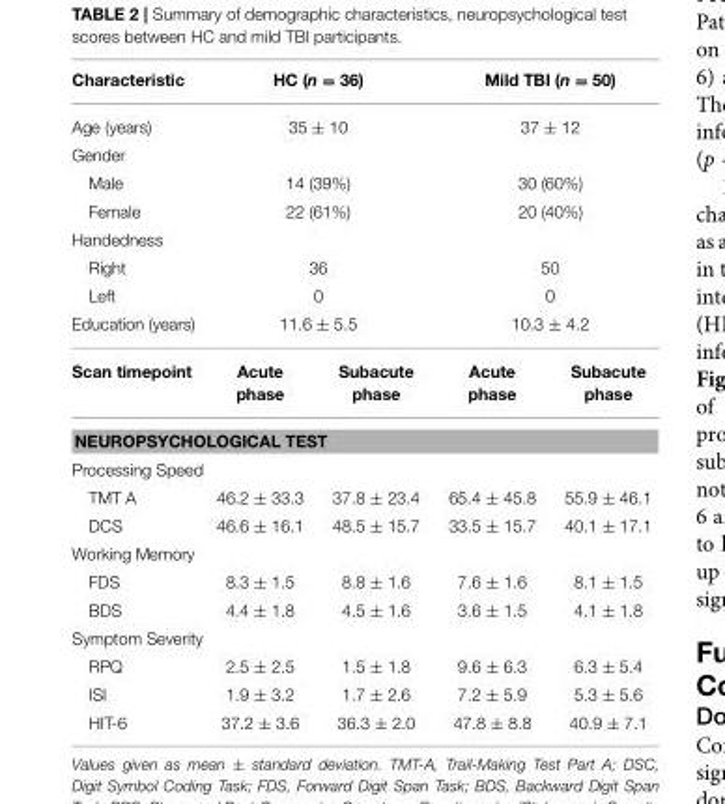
<table><thead><tr><td>Characteristic</td><td colspan="2">HC (n = 36)</td><td colspan="2">Mild TBI (n = 50)</td></tr></thead><tbody><tr><td>Age (years)</td><td colspan="2">35 ± 10</td><td colspan="2">37 ± 12</td></tr><tr><td colspan="5">Gender</td></tr><tr><td>Male</td><td colspan="2">14 (39%)</td><td colspan="2">30 (60%)</td></tr><tr><td>Female</td><td colspan="2">22 (61%)</td><td colspan="2">20 (40%)</td></tr><tr><td colspan="5">Handedness</td></tr><tr><td>Right</td><td colspan="2">36</td><td colspan="2">50</td></tr><tr><td>Left</td><td colspan="2">0</td><td colspan="2">0</td></tr><tr><td>Education (years)</td><td colspan="2">11.6 ± 5.5</td><td colspan="2">10.3 ± 4.2</td></tr><tr><td>Scan timepoint</td><td>Acute phase</td><td>Subacute phase</td><td>Acute phase</td><td>Subacute phase</td></tr><tr><td colspan="5">NEUROPSYCHOLOGICAL TEST</td></tr><tr><td colspan="5">Processing Speed</td></tr><tr><td>TMT A</td><td>46.2 ± 33.3</td><td>37.8 ± 23.4</td><td>65.4 ± 45.8</td><td>55.9 ± 46.1</td></tr><tr><td>DCS</td><td>46.6 ± 16.1</td><td>48.5 ± 15.7</td><td>33.5 ± 15.7</td><td>40.1 ± 17.1</td></tr><tr><td colspan="5">Working Memory</td></tr><tr><td>FDS</td><td>8.3 ± 1.5</td><td>8.8 ± 1.6</td><td>7.6 ± 1.6</td><td>8.1 ± 1.5</td></tr><tr><td>BDS</td><td>4.4 ± 1.8</td><td>4.5 ± 1.6</td><td>3.6 ± 1.5</td><td>4.1 ± 1.8</td></tr><tr><td colspan="5">Symptom Severity</td></tr><tr><td>RPQ</td><td>2.5 ± 2.5</td><td>1.5 ± 1.8</td><td>9.6 ± 6.3</td><td>6.3 ± 5.4</td></tr><tr><td>ISI</td><td>1.9 ± 3.2</td><td>1.7 ± 2.6</td><td>7.2 ± 5.9</td><td>5.3 ± 5.6</td></tr><tr><td>HIT-6</td><td>37.2 ± 3.6</td><td>36.3 ± 2.0</td><td>47.8 ± 8.8</td><td>40.9 ± 7.1</td></tr></tbody></table>